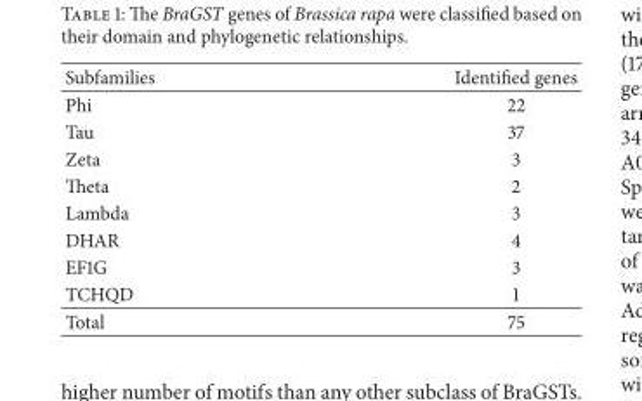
<table><thead><tr><td>Subfamilies</td><td>Identified genes</td></tr></thead><tbody><tr><td>Phi</td><td>22</td></tr><tr><td>Tau</td><td>37</td></tr><tr><td>Zeta</td><td>3</td></tr><tr><td>Theta</td><td>2</td></tr><tr><td>Lambda</td><td>3</td></tr><tr><td>DHAR</td><td>4</td></tr><tr><td>EF1G</td><td>3</td></tr><tr><td>TCHQD</td><td>1</td></tr><tr><td>Total</td><td>75</td></tr></tbody></table>